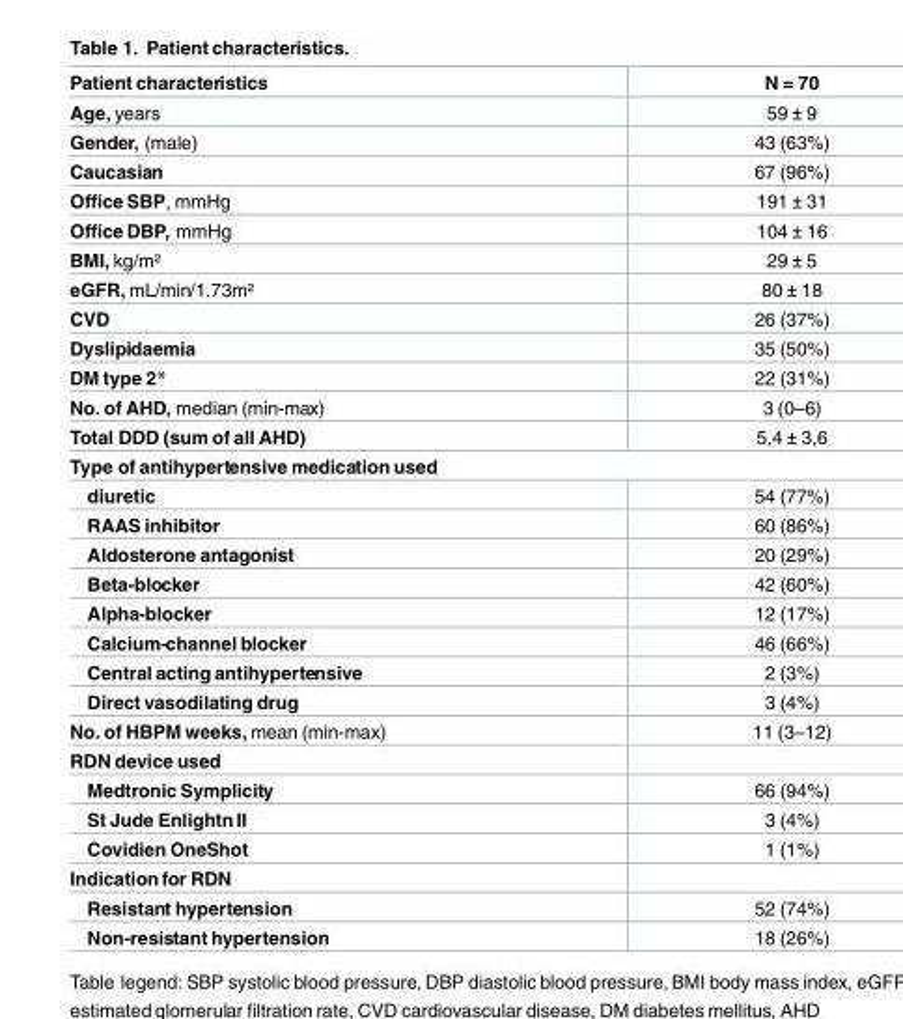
<table><thead><tr><td>Patient characteristics</td><td>N = 70</td></tr></thead><tbody><tr><td>Age, years</td><td>59 ± 9</td></tr><tr><td>Gender, (male)</td><td>43 (63%)</td></tr><tr><td>Caucasian</td><td>67 (96%)</td></tr><tr><td>Office SBP, mmHg</td><td>191 ± 31</td></tr><tr><td>Office DBP, mmHg</td><td>104 ± 16</td></tr><tr><td>BMI, kg/m²</td><td>29 ± 5</td></tr><tr><td>eGFR, mL/min/1.73m²</td><td>80 ± 18</td></tr><tr><td>CVD</td><td>26 (37%)</td></tr><tr><td>Dyslipidaemia</td><td>35 (50%)</td></tr><tr><td>DM type 2*</td><td>22 (31%)</td></tr><tr><td>No. of AHD, median (min-max)</td><td>3 (0–6)</td></tr><tr><td>Total DDD (sum of all AHD)</td><td>5,4 ± 3,6</td></tr><tr><td colspan="2">Type of antihypertensive medication used</td></tr><tr><td>diuretic</td><td>54 (77%)</td></tr><tr><td>RAAS inhibitor</td><td>60 (86%)</td></tr><tr><td>Aldosterone antagonist</td><td>20 (29%)</td></tr><tr><td>Beta-blocker</td><td>42 (60%)</td></tr><tr><td>Alpha-blocker</td><td>12 (17%)</td></tr><tr><td>Calcium-channel blocker</td><td>46 (66%)</td></tr><tr><td>Central acting antihypertensive</td><td>2 (3%)</td></tr><tr><td>Direct vasodilating drug</td><td>3 (4%)</td></tr><tr><td>No. of HBPM weeks, mean (min-max)</td><td>11 (3–12)</td></tr><tr><td colspan="2">RDN device used</td></tr><tr><td>Medtronic Symplicity</td><td>66 (94%)</td></tr><tr><td>St Jude Enlightn II</td><td>3 (4%)</td></tr><tr><td>Covidien OneShot</td><td>1 (1%)</td></tr><tr><td colspan="2">Indicationfor RDN</td></tr><tr><td>Resistant hypertension</td><td>52 (74%)</td></tr><tr><td>Non-resistant hypertension</td><td>18 (26%)</td></tr></tbody></table>